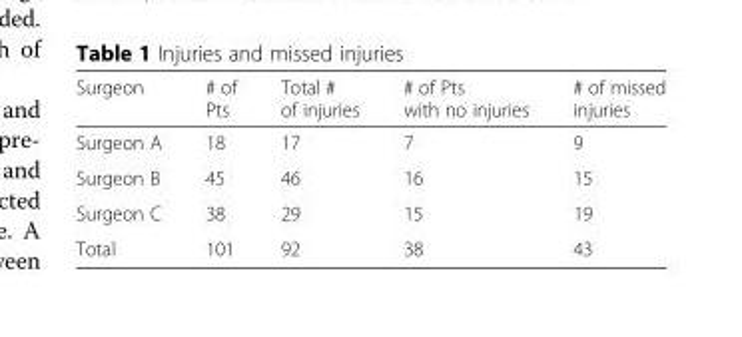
<table><thead><tr><td>Surgeon</td><td># of Pts</td><td>Total # of injuries</td><td># of Pts with no injuries</td><td># of missed injuries</td></tr></thead><tbody><tr><td>Surgeon A</td><td>18</td><td>17</td><td>7</td><td>9</td></tr><tr><td>Surgeon B</td><td>45</td><td>46</td><td>16</td><td>15</td></tr><tr><td>Surgeon C</td><td>38</td><td>29</td><td>15</td><td>19</td></tr><tr><td>Total</td><td>101</td><td>92</td><td>38</td><td>43</td></tr></tbody></table>